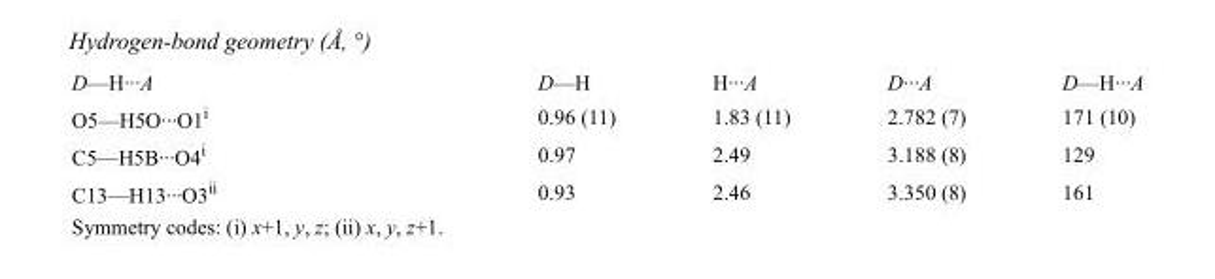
<table><tbody><tr><td>D—H···A</td><td>D—H</td><td>H···A</td><td>D···A</td><td>D—H···A</td></tr><tr><td>O5—H5O···O1<sup>i</sup></td><td>0.96 (11)</td><td>1.83 (11)</td><td>2.782 (7)</td><td>171 (10)</td></tr><tr><td>C5—H5B···O4<sup>i</sup></td><td>0.97</td><td>2.49</td><td>3.188 (8)</td><td>129</td></tr><tr><td>C13—H13···O3<sup>ii</sup></td><td>0.93</td><td>2.46</td><td>3.350 (8)</td><td>161</td></tr></tbody></table>